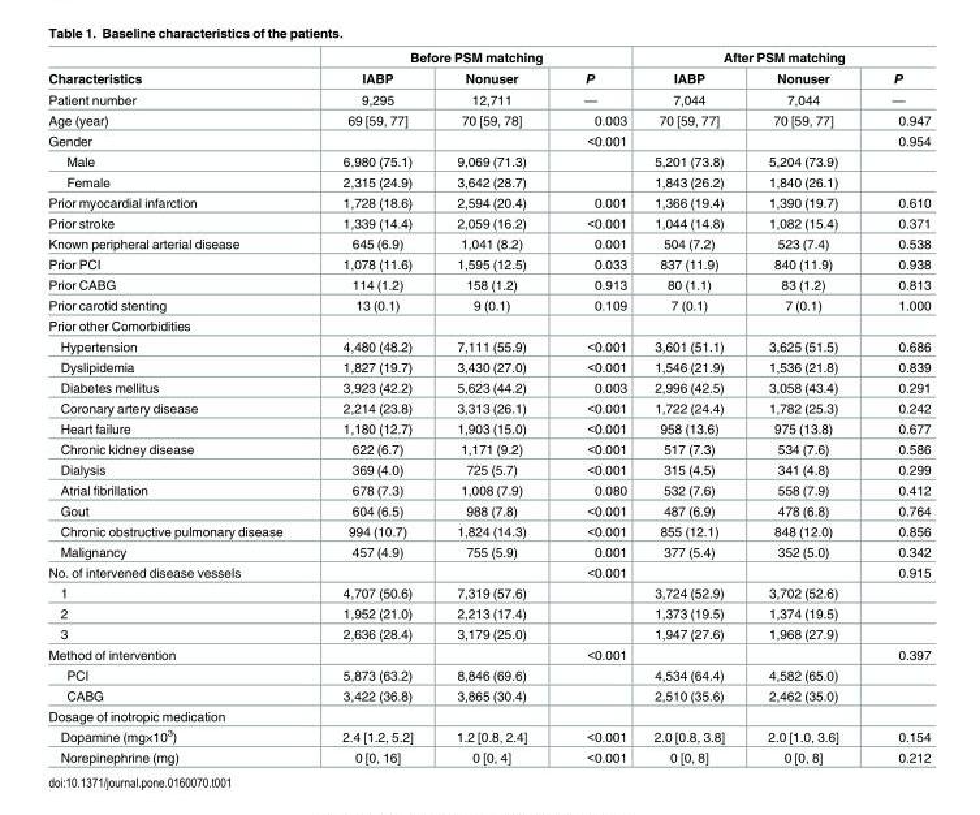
<table><thead><tr><td rowspan="2">Characteristics</td><td colspan="3">Before PSM matching</td><td colspan="3">After PSM matching</td></tr><tr><td>IABP</td><td>Nonuser</td><td>P</td><td>IABP</td><td>Nonuser</td><td>P</td></tr></thead><tbody><tr><td>Patient number</td><td>9,295</td><td>12,711</td><td>—</td><td>7,044</td><td>7,044</td><td>—</td></tr><tr><td>Age (year)</td><td>69 [59, 77]</td><td>70 [59, 78]</td><td>0.003</td><td>70 [59, 77]</td><td>70 [59, 77]</td><td>0.947</td></tr><tr><td>Gender</td><td></td><td></td><td>&lt;0.001</td><td></td><td></td><td>0.954</td></tr><tr><td>Male</td><td>6,980 (75.1)</td><td>9,069 (71.3)</td><td></td><td>5,201 (73.8)</td><td>5,204 (73.9)</td><td></td></tr><tr><td>Female</td><td>2,315 (24.9)</td><td>3,642 (28.7)</td><td></td><td>1,843 (26.2)</td><td>1,840 (26.1)</td><td></td></tr><tr><td>Prior myocardial infarction</td><td>1,728 (18.6)</td><td>2,594 (20.4)</td><td>0.001</td><td>1,366 (19.4)</td><td>1,390 (19.7)</td><td>0.610</td></tr><tr><td>Prior stroke</td><td>1,339 (14.4)</td><td>2,059 (16.2)</td><td>&lt;0.001</td><td>1,044 (14.8)</td><td>1,082 (15.4)</td><td>0.371</td></tr><tr><td>Known peripheral arterial disease</td><td>645 (6.9)</td><td>1,041 (8.2)</td><td>0.001</td><td>504 (7.2)</td><td>523 (7.4)</td><td>0.538</td></tr><tr><td>Prior PCI</td><td>1,078 (11.6)</td><td>1,595 (12.5)</td><td>0.033</td><td>837 (11.9)</td><td>840 (11.9)</td><td>0.938</td></tr><tr><td>Prior CABG</td><td>114 (1.2)</td><td>158 (1.2)</td><td>0.913</td><td>80 (1.1)</td><td>83 (1.2)</td><td>0.813</td></tr><tr><td>Prior carotid stenting</td><td>13 (0.1)</td><td>9 (0.1)</td><td>0.109</td><td>7 (0.1)</td><td>7 (0.1)</td><td>1.000</td></tr><tr><td colspan="7">Prior other Comorbidities</td></tr><tr><td>Hypertension</td><td>4,480 (48.2)</td><td>7,111 (55.9)</td><td>&lt;0.001</td><td>3,601 (51.1)</td><td>3,625 (51.5)</td><td>0.686</td></tr><tr><td>Dyslipidemia</td><td>1,827 (19.7)</td><td>3,430 (27.0)</td><td>&lt;0.001</td><td>1,546 (21.9)</td><td>1,536 (21.8)</td><td>0.839</td></tr><tr><td>Diabetes mellitus</td><td>3,923 (42.2)</td><td>5,623 (44.2)</td><td>0.003</td><td>2,996 (42.5)</td><td>3,058 (43.4)</td><td>0.291</td></tr><tr><td>Coronary artery disease</td><td>2,214 (23.8)</td><td>3,313 (26.1)</td><td>&lt;0.001</td><td>1,722 (24.4)</td><td>1,782 (25.3)</td><td>0.242</td></tr><tr><td>Heart failure</td><td>1,180 (12.7)</td><td>1,903 (15.0)</td><td>&lt;0.001</td><td>958 (13.6)</td><td>975 (13.8)</td><td>0.677</td></tr><tr><td>Chronic kidney disease</td><td>622 (6.7)</td><td>1,171 (9.2)</td><td>&lt;0.001</td><td>517 (7.3)</td><td>534 (7.6)</td><td>0.586</td></tr><tr><td>Dialysis</td><td>369 (4.0)</td><td>725 (5.7)</td><td>&lt;0.001</td><td>315 (4.5)</td><td>341 (4.8)</td><td>0.299</td></tr><tr><td>Atrial fibrillation</td><td>678 (7.3)</td><td>1,008 (7.9)</td><td>0.080</td><td>532 (7.6)</td><td>558 (7.9)</td><td>0.412</td></tr><tr><td>Gout</td><td>604 (6.5)</td><td>988 (7.8)</td><td>&lt;0.001</td><td>487 (6.9)</td><td>478 (6.8)</td><td>0.764</td></tr><tr><td>Chronic obstructive pulmonary disease</td><td>994 (10.7)</td><td>1,824 (14.3)</td><td>&lt;0.001</td><td>855 (12.1)</td><td>848 (12.0)</td><td>0.856</td></tr><tr><td>Malignancy</td><td>457 (4.9)</td><td>755 (5.9)</td><td>0.001</td><td>377 (5.4)</td><td>352 (5.0)</td><td>0.342</td></tr><tr><td>No. of intervened disease vessels</td><td></td><td></td><td>&lt;0.001</td><td></td><td></td><td>0.915</td></tr><tr><td>1</td><td>4,707 (50.6)</td><td>7,319 (57.6)</td><td></td><td>3,724 (52.9)</td><td>3,702 (52.6)</td><td></td></tr><tr><td>2</td><td>1,952 (21.0)</td><td>2,213 (17.4)</td><td></td><td>1,373 (19.5)</td><td>1,374 (19.5)</td><td></td></tr><tr><td>3</td><td>2,636 (28.4)</td><td>3,179 (25.0)</td><td></td><td>1,947 (27.6)</td><td>1,968 (27.9)</td><td></td></tr><tr><td>Method of intervention</td><td></td><td></td><td>&lt;0.001</td><td></td><td></td><td>0.397</td></tr><tr><td>PCI</td><td>5,873 (63.2)</td><td>8,846 (69.6)</td><td></td><td>4,534 (64.4)</td><td>4,582 (65.0)</td><td></td></tr><tr><td>CABG</td><td>3,422 (36.8)</td><td>3,865 (30.4)</td><td></td><td>2,510 (35.6)</td><td>2,462 (35.0)</td><td></td></tr><tr><td colspan="7">Dosage of inotropic medication</td></tr><tr><td>Dopamine (mg×10<sup>3</sup>)</td><td>2.4 [1.2, 5.2]</td><td>1.2 [0.8, 2.4]</td><td>&lt;0.001</td><td>2.0 [0.8, 3.8]</td><td>2.0 [1.0, 3.6]</td><td>0.154</td></tr><tr><td>Norepinephrine (mg)</td><td>0 [0, 16]</td><td>0 [0, 4]</td><td>&lt;0.001</td><td>0 [0, 8]</td><td>0 [0, 8]</td><td>0.212</td></tr></tbody></table>